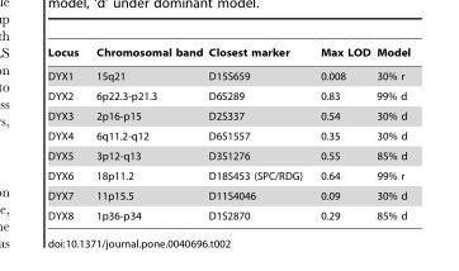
<table><thead><tr><td>Locus</td><td>Chromosomal band</td><td>Closest marker</td><td>Max LOD</td><td>Model</td></tr></thead><tbody><tr><td>DYX1</td><td>15q21</td><td>D15S659</td><td>0.008</td><td>30% r</td></tr><tr><td>DYX2</td><td>6p22.3-p21.3</td><td>D6S289</td><td>0.83</td><td>99% d</td></tr><tr><td>DYX3</td><td>2p16-p15</td><td>D2S337</td><td>0.54</td><td>30% d</td></tr><tr><td>DYX4</td><td>6q11.2-q12</td><td>D6S1557</td><td>0.35</td><td>30% d</td></tr><tr><td>DYX5</td><td>3p12-q13</td><td>D3S1276</td><td>0.55</td><td>85% d</td></tr><tr><td>DYX6</td><td>18p11.2</td><td>D18S453 (SPC/RDG)</td><td>0.64</td><td>99% r</td></tr><tr><td>DYX7</td><td>11p15.5</td><td>D11S4046</td><td>0.09</td><td>30% d</td></tr><tr><td>DYX8</td><td>1p36-p34</td><td>D1S2870</td><td>0.29</td><td>85% d</td></tr></tbody></table>